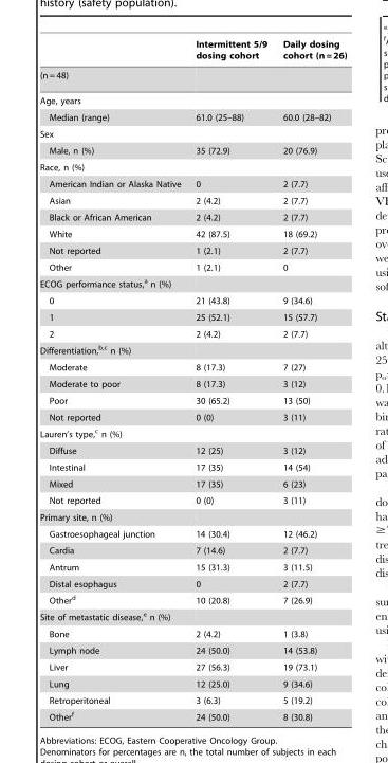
<table><thead><tr><td></td><td>Intermittent 5/9 dosing cohort</td><td>Daily dosing cohort (n = 26)</td></tr></thead><tbody><tr><td colspan="3">(n = 48)</td></tr><tr><td colspan="3">Age, years</td></tr><tr><td>Median (range)</td><td>61.0 (25–88)</td><td>60.0 (28–82)</td></tr><tr><td colspan="3">Sex</td></tr><tr><td>Male, n (%)</td><td>35 (72.9)</td><td>20 (76.9)</td></tr><tr><td colspan="3">Race, n (%)</td></tr><tr><td>American Indian or Alaska Native</td><td>0</td><td>2 (7.7)</td></tr><tr><td>Asian</td><td>2 (4.2)</td><td>2 (7.7)</td></tr><tr><td>Black or African American</td><td>2 (4.2)</td><td>2 (7.7)</td></tr><tr><td>White</td><td>42 (87.5)</td><td>18 (69.2)</td></tr><tr><td>Not reported</td><td>1 (2.1)</td><td>2 (7.7)</td></tr><tr><td>Other</td><td>1 (2.1)</td><td>0</td></tr><tr><td colspan="3">ECOG performance status,<sup>a</sup> n (%)</td></tr><tr><td>0</td><td>21 (43.8)</td><td>9 (34.6)</td></tr><tr><td>1</td><td>25 (52.1)</td><td>15 (57.7)</td></tr><tr><td>2</td><td>2 (4.2)</td><td>2 (7.7)</td></tr><tr><td colspan="3">Differentiation,<sup>b,c</sup> n (%)</td></tr><tr><td>Moderate</td><td>8 (17.3)</td><td>7 (27)</td></tr><tr><td>Moderate to poor</td><td>8 (17.3)</td><td>3 (12)</td></tr><tr><td>Poor</td><td>30 (65.2)</td><td>13 (50)</td></tr><tr><td>Not reported</td><td>0 (0)</td><td>3 (11)</td></tr><tr><td colspan="3">Lauren’s type,<sup>c</sup> n (%)</td></tr><tr><td>Diffuse</td><td>12 (25)</td><td>3 (12)</td></tr><tr><td>Intestinal</td><td>17 (35)</td><td>14 (54)</td></tr><tr><td>Mixed</td><td>17 (35)</td><td>6 (23)</td></tr><tr><td>Not reported</td><td>0 (0)</td><td>3 (11)</td></tr><tr><td colspan="3">Primary site, n (%)</td></tr><tr><td>Gastroesophageal junction</td><td>14 (30.4)</td><td>12 (46.2)</td></tr><tr><td>Cardia</td><td>7 (14.6)</td><td>2 (7.7)</td></tr><tr><td>Antrum</td><td>15 (31.3)</td><td>3 (11.5)</td></tr><tr><td>Distal esophagus</td><td>0</td><td>2 (7.7)</td></tr><tr><td>Other<sup>d</sup></td><td>10 (20.8)</td><td>7 (26.9)</td></tr><tr><td colspan="3">Site of metastatic disease,<sup>e</sup> n (%)</td></tr><tr><td>Bone</td><td>2 (4.2)</td><td>1 (3.8)</td></tr><tr><td>Lymph node</td><td>24 (50.0)</td><td>14 (53.8)</td></tr><tr><td>Liver</td><td>27 (56.3)</td><td>19 (73.1)</td></tr><tr><td>Lung</td><td>12 (25.0)</td><td>9 (34.6)</td></tr><tr><td>Retroperitoneal</td><td>3 (6.3)</td><td>5 (19.2)</td></tr><tr><td>Other<sup>f</sup></td><td>24 (50.0)</td><td>8 (30.8)</td></tr></tbody></table>